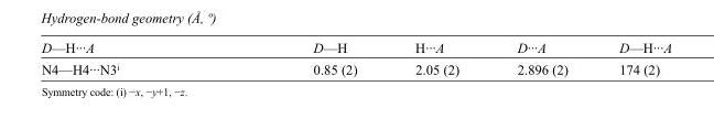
<table><tbody><tr><td>D—H···A</td><td>D—H</td><td>H···A</td><td>D···A</td><td>D—H···A</td></tr><tr><td>N4—H4···N3<sup>i</sup></td><td>0.85 (2)</td><td>2.05 (2)</td><td>2.896 (2)</td><td>174 (2)</td></tr></tbody></table>